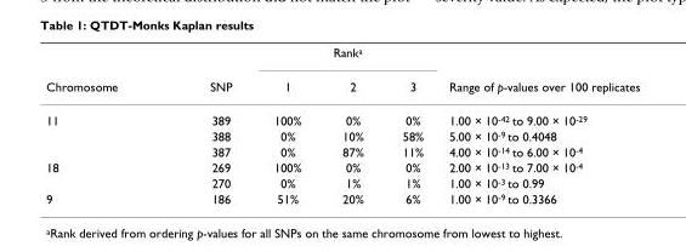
<table><thead><tr><td rowspan="2">Chromosome</td><td rowspan="2">SNP</td><td colspan="3">Rank<sup>a</sup></td><td rowspan="2">Range of p-values over 100 replicates</td></tr><tr><td>1</td><td>2</td><td>3</td></tr></thead><tbody><tr><td rowspan="3">11</td><td>389</td><td>100%</td><td>0%</td><td>0%</td><td>1.00 × 10<sup>-42</sup> to 9.00 × 10<sup>-29</sup></td></tr><tr><td>388</td><td>0%</td><td>10%</td><td>58%</td><td>5.00 × 10<sup>-9</sup> to 0.4048</td></tr><tr><td>387</td><td>0%</td><td>87%</td><td>11%</td><td>4.00 × 10<sup>-14</sup> to 6.00 × 10<sup>-4</sup></td></tr><tr><td rowspan="2">18</td><td>269</td><td>100%</td><td>0%</td><td>0%</td><td>2.00 × 10<sup>-13</sup> to 7.00 × 10<sup>-4</sup></td></tr><tr><td>270</td><td>0%</td><td>1%</td><td>1%</td><td>1.00 × 10<sup>-3</sup> to 0.99</td></tr><tr><td>9</td><td>186</td><td>51%</td><td>20%</td><td>6%</td><td>1.00 × 10<sup>-9</sup> to 0.3366</td></tr></tbody></table>